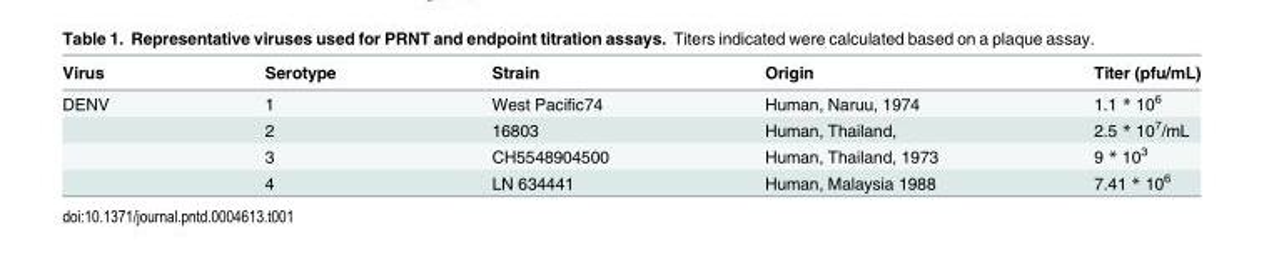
<table><thead><tr><td>Virus</td><td>Serotype</td><td>Strain</td><td>Origin</td><td>Titer (pfu/mL)</td></tr></thead><tbody><tr><td rowspan="4">DENV</td><td>1</td><td>West Pacific74</td><td>Human, Naruu, 1974</td><td>1.1 * 10<sup>6</sup></td></tr><tr><td>2</td><td>16803</td><td>Human, Thailand,</td><td>2.5 * 10<sup>7</sup>/mL</td></tr><tr><td>3</td><td>CH5548904500</td><td>Human, Thailand, 1973</td><td>9 * 10<sup>3</sup></td></tr><tr><td>4</td><td>LN 634441</td><td>Human, Malaysia 1988</td><td>7.41 * 10<sup>6</sup></td></tr></tbody></table>